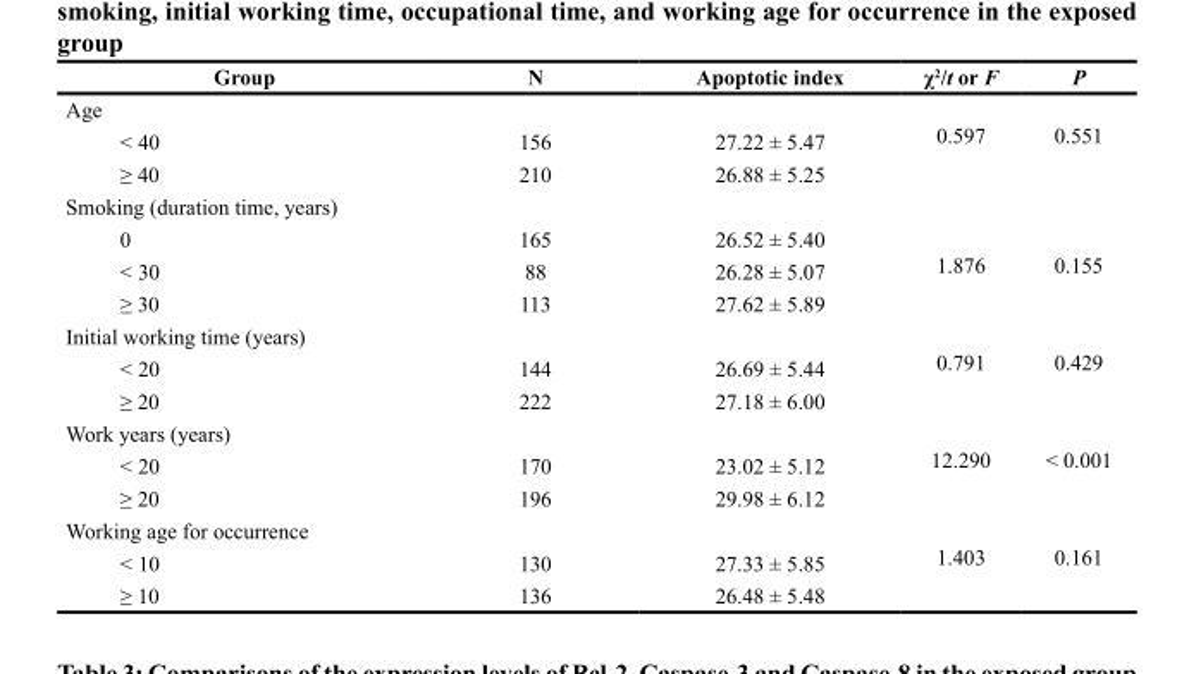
<table><thead><tr><td>Group</td><td>N</td><td>Apoptotic index</td><td>χ<sup>2</sup>/t or F</td><td>P</td></tr></thead><tbody><tr><td colspan="3">Age</td><td rowspan="3">0.597</td><td rowspan="3">0.551</td></tr><tr><td>&lt; 40</td><td>156</td><td>27.22 ± 5.47</td></tr><tr><td>≥ 40</td><td>210</td><td>26.88 ± 5.25</td></tr><tr><td colspan="5">Smoking (duration time, years)</td></tr><tr><td>0</td><td>165</td><td>26.52 ± 5.40</td><td rowspan="3">1.876</td><td rowspan="3">0.155</td></tr><tr><td>&lt; 30</td><td>88</td><td>26.28 ± 5.07</td></tr><tr><td>≥ 30</td><td>113</td><td>27.62 ± 5.89</td></tr><tr><td colspan="3">Initial working time (years)</td><td rowspan="3">0.791</td><td rowspan="3">0.429</td></tr><tr><td>&lt; 20</td><td>144</td><td>26.69 ± 5.44</td></tr><tr><td>≥ 20</td><td>222</td><td>27.18 ± 6.00</td></tr><tr><td colspan="3">Work years (years)</td><td rowspan="3">12.290</td><td rowspan="3">&lt; 0.001</td></tr><tr><td>&lt; 20</td><td>170</td><td>23.02 ± 5.12</td></tr><tr><td>≥ 20</td><td>196</td><td>29.98 ± 6.12</td></tr><tr><td colspan="3">Working age for occurrence</td><td rowspan="3">1.403</td><td rowspan="3">0.161</td></tr><tr><td>&lt; 10</td><td>130</td><td>27.33 ± 5.85</td></tr><tr><td>≥ 10</td><td>136</td><td>26.48 ± 5.48</td></tr></tbody></table>